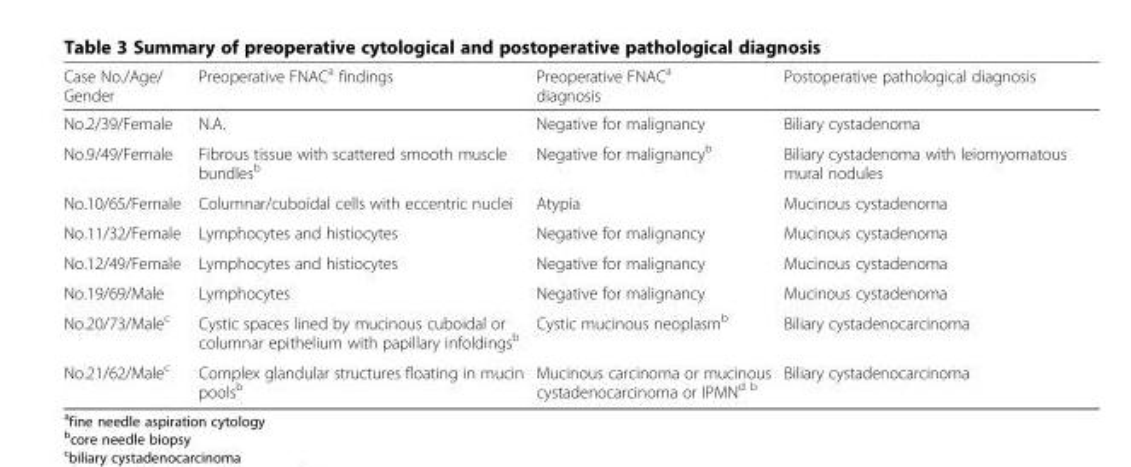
<table><thead><tr><td>Case No./Age/ Gender</td><td>Preoperative FNAC<sup>a</sup> findings</td><td>Preoperative FNAC<sup>a</sup> diagnosis</td><td>Postoperative pathological diagnosis</td></tr></thead><tbody><tr><td>No.2/39/Female</td><td>N.A.</td><td>Negative for malignancy</td><td>Biliary cystadenoma</td></tr><tr><td>No.9/49/Female</td><td>Fibrous tissue with scattered smooth muscle bundles<sup>b</sup></td><td>Negative for malignancy<sup>b</sup></td><td>Biliary cystadenoma with leiomyomatous mural nodules</td></tr><tr><td>No.10/65/Female</td><td>Columnar/cuboidal cells with eccentric nuclei</td><td>Atypia</td><td>Mucinous cystadenoma</td></tr><tr><td>No.11/32/Female</td><td>Lymphocytes and histiocytes</td><td>Negative for malignancy</td><td>Mucinous cystadenoma</td></tr><tr><td>No.12/49/Female</td><td>Lymphocytes and histiocytes</td><td>Negative for malignancy</td><td>Mucinous cystadenoma</td></tr><tr><td>No.19/69/Male</td><td>Lymphocytes</td><td>Negative for malignancy</td><td>Mucinous cystadenoma</td></tr><tr><td>No.20/73/Male<sup>c</sup></td><td>Cystic spaces lined by mucinous cuboidal or columnar epithelium with papillary infoldings<sup>b</sup></td><td>Cystic mucinous neoplasm<sup>b</sup></td><td>Biliary cystadenocarcinoma</td></tr><tr><td>No.21/62/Male<sup>c</sup></td><td>Complex glandular structures floating in mucin pools<sup>b</sup></td><td>Mucinous carcinoma or mucinous cystadenocarcinoma or IPMN<sup>d b</sup></td><td>Biliary cystadenocarcinoma</td></tr></tbody></table>